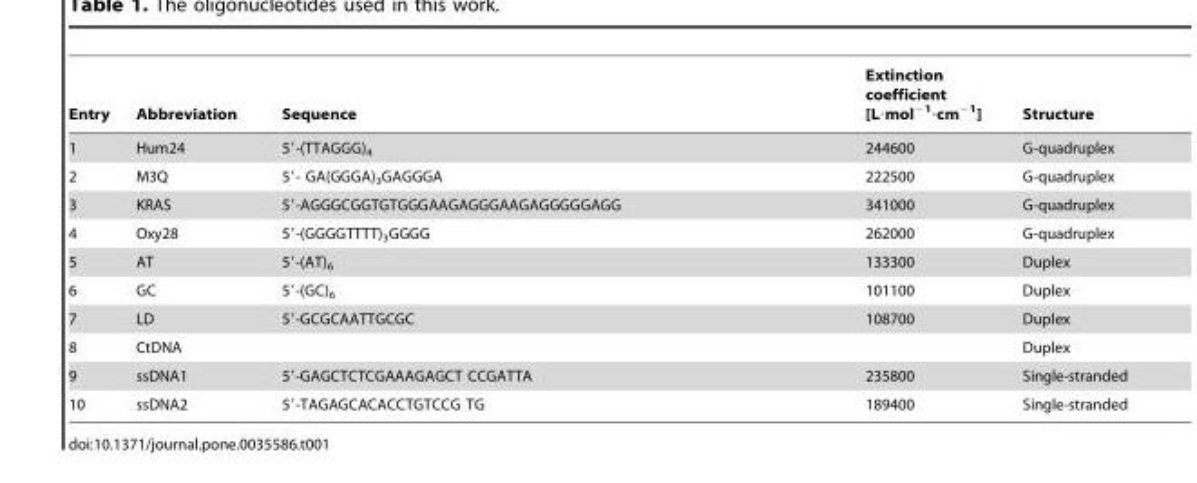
<table><thead><tr><td>Entry</td><td>Abbreviation</td><td>Sequence</td><td>Extinction coefficient [L·mol<sup>−1</sup>·cm<sup>−1</sup>]</td><td>Structure</td></tr></thead><tbody><tr><td>1</td><td>Hum24</td><td>5′-(TTAGGG)<sub>4</sub></td><td>244600</td><td>G-quadruplex</td></tr><tr><td>2</td><td>M3Q</td><td>5′- GA(GGGA)<sub>3</sub>GAGGGA</td><td>222500</td><td>G-quadruplex</td></tr><tr><td>3</td><td>KRAS</td><td>5′-AGGGCGGTGTGGGAAGAGGGAAGAGGGGGAGG</td><td>341000</td><td>G-quadruplex</td></tr><tr><td>4</td><td>Oxy28</td><td>5′-(GGGGTTTT)<sub>3</sub>GGGG</td><td>262000</td><td>G-quadruplex</td></tr><tr><td>5</td><td>AT</td><td>5′-(AT)<sub>6</sub></td><td>133300</td><td>Duplex</td></tr><tr><td>6</td><td>GC</td><td>5′-(GC)<sub>6</sub></td><td>101100</td><td>Duplex</td></tr><tr><td>7</td><td>LD</td><td>5′-GCGCAATTGCGC</td><td>108700</td><td>Duplex</td></tr><tr><td>8</td><td>CtDNA</td><td></td><td></td><td>Duplex</td></tr><tr><td>9</td><td>ssDNA1</td><td>5′-GAGCTCTCGAAAGAGCT CCGATTA</td><td>235800</td><td>Single-stranded</td></tr><tr><td>10</td><td>ssDNA2</td><td>5′-TAGAGCACACCTGTCCG TG</td><td>189400</td><td>Single-stranded</td></tr></tbody></table>